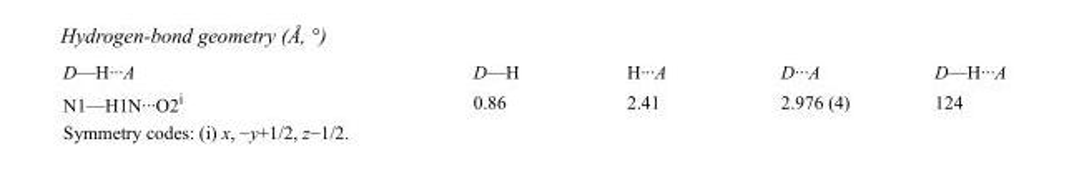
<table><tbody><tr><td>D—H···A</td><td>D—H</td><td>H···A</td><td>D···A</td><td>D—H···A</td></tr><tr><td>N1—H1N···O2<sup>i</sup></td><td>0.86</td><td>2.41</td><td>2.976 (4)</td><td>124</td></tr></tbody></table>